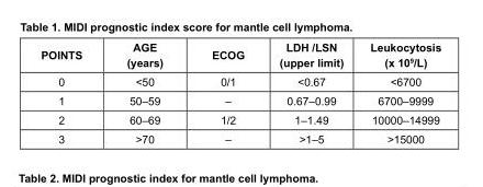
<table><thead><tr><td>POINTS</td><td>AGE (years)</td><td>ECOG</td><td>LDH /LSN (upper limit)</td><td>Leukocytosis (x 10<sup>9</sup>/L)</td></tr></thead><tbody><tr><td>0</td><td>&lt;50</td><td>0/1</td><td>&lt;0.67</td><td>&lt;6700</td></tr><tr><td>1</td><td>50–59</td><td>–</td><td>0.67–0.99</td><td>6700–9999</td></tr><tr><td>2</td><td>60–69</td><td>1/2</td><td>1–1.49</td><td>10000–14999</td></tr><tr><td>3</td><td>&gt;70</td><td>–</td><td>&gt;1–5</td><td>&gt;15000</td></tr></tbody></table>